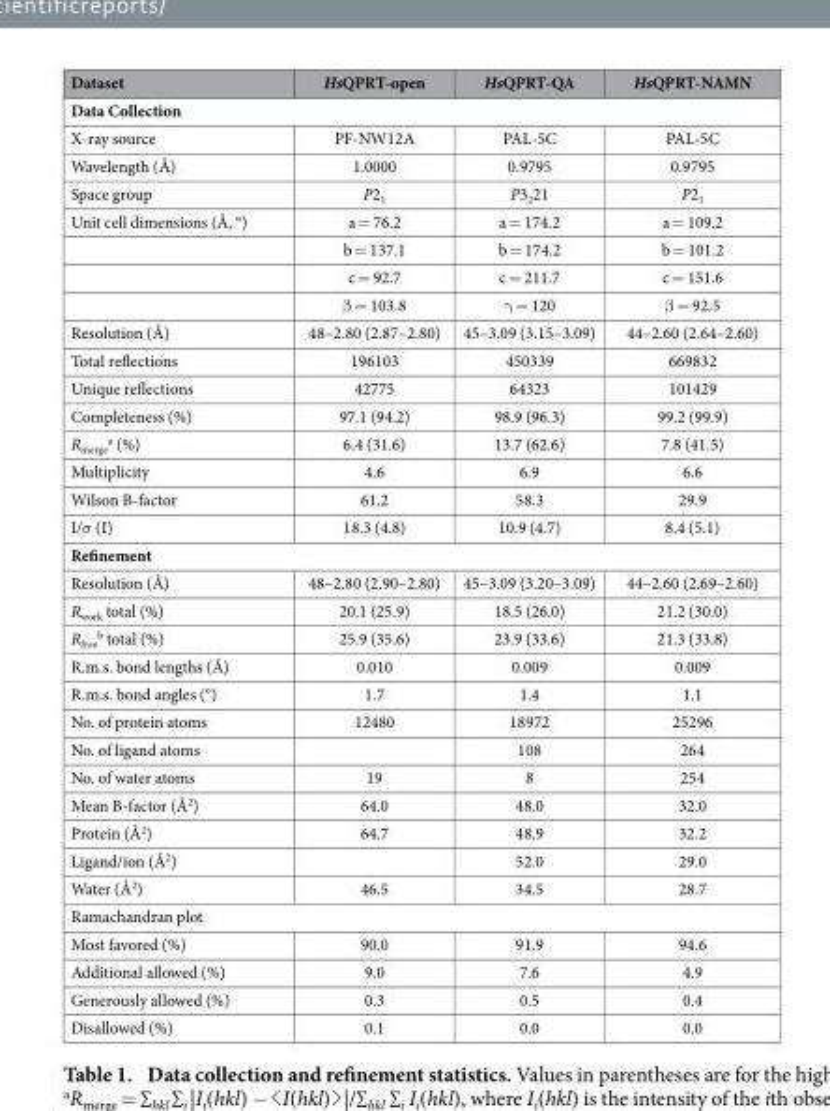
<table><thead><tr><td>Dataset</td><td>HsQPRT-open</td><td>HsQPRT-QA</td><td>HsQPRT-NAMN</td></tr></thead><tbody><tr><td colspan="4">Data Collection</td></tr><tr><td>X-ray source</td><td>PF-NW12A</td><td>PAL-5C</td><td>PAL-5C</td></tr><tr><td>Wavelength (Å)</td><td>1.0000</td><td>0.9795</td><td>0.9795</td></tr><tr><td>Space group</td><td>P2<sub>1</sub></td><td>P3<sub>2</sub>21</td><td>P2<sub>1</sub></td></tr><tr><td rowspan="4">Unit cell dimensions (Å, °)</td><td>a = 76.2</td><td>a = 174.2</td><td>a = 109.2</td></tr><tr><td>b = 137.1</td><td>b = 174.2</td><td>b = 101.2</td></tr><tr><td>c = 92.7</td><td>c = 211.7</td><td>c = 151.6</td></tr><tr><td>β = 103.8</td><td>γ = 120</td><td>β = 92.5</td></tr><tr><td>Resolution (Å)</td><td>48–2.80 (2.87–2.80)</td><td>45–3.09 (3.15–3.09)</td><td>44–2.60 (2.64–2.60)</td></tr><tr><td>Total reflections</td><td>196103</td><td>450339</td><td>669832</td></tr><tr><td>Unique reflections</td><td>42775</td><td>64323</td><td>101429</td></tr><tr><td>Completeness (%)</td><td>97.1 (94.2)</td><td>98.9 (96.3)</td><td>99.2 (99.9)</td></tr><tr><td>R<sub>merge</sub> a (%)</td><td>6.4 (31.6)</td><td>13.7 (62.6)</td><td>7.8 (41.5)</td></tr><tr><td>Multiplicity</td><td>4.6</td><td>6.9</td><td>6.6</td></tr><tr><td>Wilson B-factor</td><td>61.2</td><td>58.3</td><td>29.9</td></tr><tr><td>I/σ (I)</td><td>18.3 (4.8)</td><td>10.9 (4.7)</td><td>8.4 (5.1)</td></tr><tr><td colspan="4">Refinement</td></tr><tr><td>Resolution (Å)</td><td>48–2.80 (2.90–2.80)</td><td>45–3.09 (3.20–3.09)</td><td>44–2.60 (2.69–2.60)</td></tr><tr><td>R<sub>work</sub> total (%)</td><td>20.1 (25.9)</td><td>18.5 (26.0)</td><td>21.2 (30.0)</td></tr><tr><td>R<sub>free</sub> <sup>b</sup> total (%)</td><td>25.9 (35.6)</td><td>23.9 (33.6)</td><td>21.3 (33.8)</td></tr><tr><td>R.m.s. bond lengths (Å)</td><td>0.010</td><td>0.009</td><td>0.009</td></tr><tr><td>R.m.s. bond angles (°)</td><td>1.7</td><td>1.4</td><td>1.1</td></tr><tr><td>No. of protein atoms</td><td>12480</td><td>18972</td><td>25296</td></tr><tr><td>No. of ligand atoms</td><td></td><td>108</td><td>264</td></tr><tr><td>No. of water atoms</td><td>19</td><td>8</td><td>254</td></tr><tr><td>Mean B-factor (Å<sup>2</sup>)</td><td>64.0</td><td>48.0</td><td>32.0</td></tr><tr><td>Protein (Å<sup>2</sup>)</td><td>64.7</td><td>48.9</td><td>32.2</td></tr><tr><td>Ligand/ion (Å<sup>2</sup>)</td><td></td><td>52.0</td><td>29.0</td></tr><tr><td>Water (Å<sup>2</sup>)</td><td>46.5</td><td>34.5</td><td>28.7</td></tr><tr><td colspan="4">Ramachandran plot</td></tr><tr><td>Most favored (%)</td><td>90.0</td><td>91.9</td><td>94.6</td></tr><tr><td>Additional allowed (%)</td><td>9.0</td><td>7.6</td><td>4.9</td></tr><tr><td>Generously allowed (%)</td><td>0.3</td><td>0.5</td><td>0.4</td></tr><tr><td>Disallowed (%)</td><td>0.1</td><td>0.0</td><td>0.0</td></tr></tbody></table>